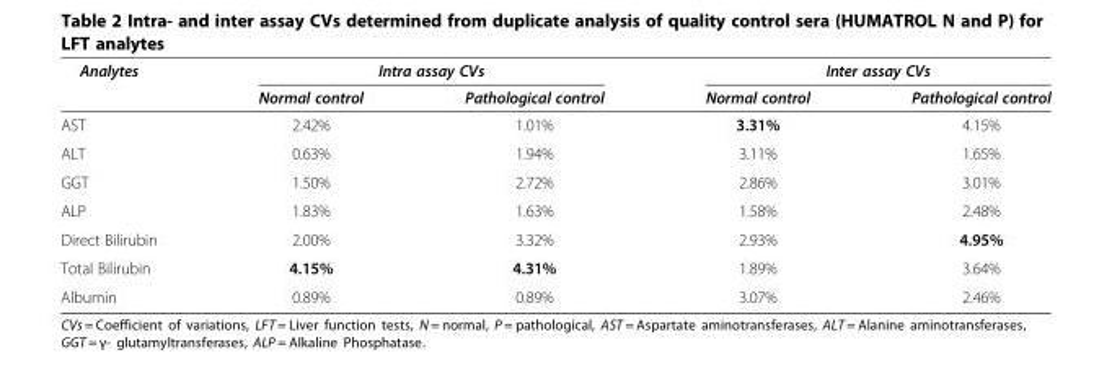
<table><thead><tr><td rowspan="2">Analytes</td><td colspan="2">Intra assay CVs</td><td colspan="2">Inter assay CVs</td></tr><tr><td>Normal control</td><td>Pathological control</td><td>Normal control</td><td>Pathological control</td></tr></thead><tbody><tr><td>AST</td><td>2.42%</td><td>1.01%</td><td>3.31%</td><td>4.15%</td></tr><tr><td>ALT</td><td>0.63%</td><td>1.94%</td><td>3.11%</td><td>1.65%</td></tr><tr><td>GGT</td><td>1.50%</td><td>2.72%</td><td>2.86%</td><td>3.01%</td></tr><tr><td>ALP</td><td>1.83%</td><td>1.63%</td><td>1.58%</td><td>2.48%</td></tr><tr><td>Direct Bilirubin</td><td>2.00%</td><td>3.32%</td><td>2.93%</td><td>4.95%</td></tr><tr><td>Total Bilirubin</td><td>4.15%</td><td>4.31%</td><td>1.89%</td><td>3.64%</td></tr><tr><td>Albumin</td><td>0.89%</td><td>0.89%</td><td>3.07%</td><td>2.46%</td></tr></tbody></table>